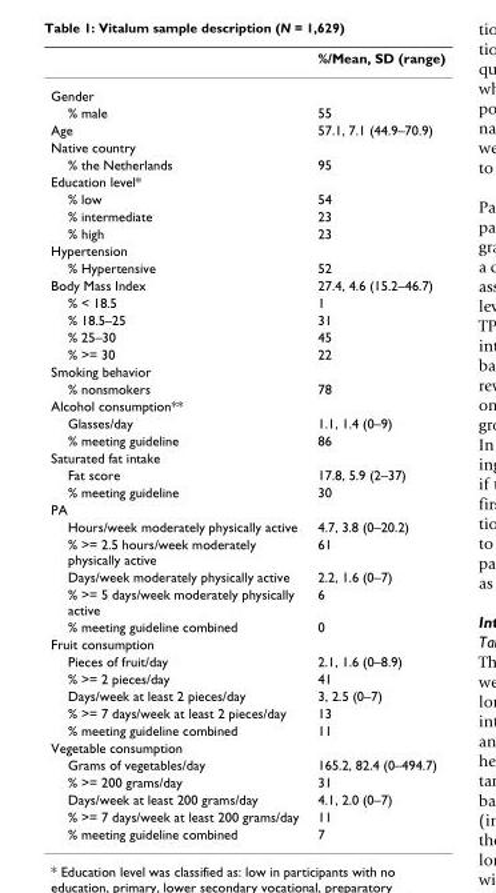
<table><thead><tr><td></td><td>%/Mean, SD (range)</td></tr></thead><tbody><tr><td colspan="2">Gender</td></tr><tr><td>% male</td><td>55</td></tr><tr><td>Age</td><td>57.1, 7.1 (44.9–70.9)</td></tr><tr><td colspan="2">Native country</td></tr><tr><td>% the Netherlands</td><td>95</td></tr><tr><td colspan="2">Education level*</td></tr><tr><td>% low</td><td>54</td></tr><tr><td>% intermediate</td><td>23</td></tr><tr><td>% high</td><td>23</td></tr><tr><td colspan="2">Hypertension</td></tr><tr><td>% Hypertensive</td><td>52</td></tr><tr><td>Body Mass Index</td><td>27.4, 4.6 (15.2–46.7)</td></tr><tr><td>% &lt; 18.5</td><td>1</td></tr><tr><td>% 18.5–25</td><td>31</td></tr><tr><td>% 25–30</td><td>45</td></tr><tr><td>% &gt;= 30</td><td>22</td></tr><tr><td colspan="2">Smoking behavior</td></tr><tr><td>% nonsmokers</td><td>78</td></tr><tr><td colspan="2">Alcohol consumption**</td></tr><tr><td>Glasses/day</td><td>1.1, 1.4 (0–9)</td></tr><tr><td>% meeting guideline</td><td>86</td></tr><tr><td colspan="2">Saturated fat intake</td></tr><tr><td>Fat score</td><td>17.8, 5.9 (2–37)</td></tr><tr><td>% meeting guideline</td><td>30</td></tr><tr><td colspan="2">PA</td></tr><tr><td>Hours/week moderately physically active</td><td>4.7, 3.8 (0–20.2)</td></tr><tr><td>% &gt;= 2.5 hours/week moderately physically active</td><td>61</td></tr><tr><td>Days/week moderately physically active</td><td>2.2, 1.6 (0–7)</td></tr><tr><td>% &gt;= 5 days/week moderately physically active</td><td>6</td></tr><tr><td>% meeting guideline combined</td><td>0</td></tr><tr><td colspan="2">Fruit consumption</td></tr><tr><td>Pieces of fruit/day</td><td>2.1, 1.6 (0–8.9)</td></tr><tr><td>% &gt;= 2 pieces/day</td><td>41</td></tr><tr><td>Days/week at least 2 pieces/day</td><td>3, 2.5 (0–7)</td></tr><tr><td>% &gt;= 7 days/week at least 2 pieces/day</td><td>13</td></tr><tr><td>% meeting guideline combined</td><td>11</td></tr><tr><td colspan="2">Vegetable consumption</td></tr><tr><td>Grams of vegetables/day</td><td>165.2, 82.4 (0–494.7)</td></tr><tr><td>% &gt;= 200 grams/day</td><td>31</td></tr><tr><td>Days/week at least 200 grams/day</td><td>4.1, 2.0 (0–7)</td></tr><tr><td>% &gt;= 7 days/week at least 200 grams/day</td><td>11</td></tr><tr><td>% meeting guideline combined</td><td>7</td></tr></tbody></table>